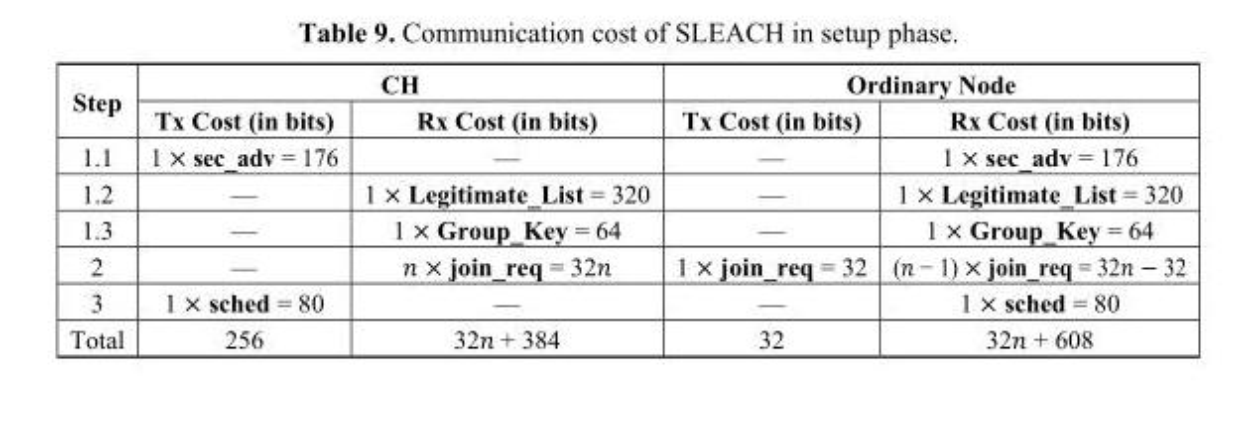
<table><thead><tr><td rowspan="2">Step</td><td colspan="2">CH</td><td colspan="2">Ordinary Node</td></tr><tr><td>Tx Cost (in bits)</td><td>Rx Cost (in bits)</td><td>Tx Cost (in bits)</td><td>Rx Cost (in bits)</td></tr></thead><tbody><tr><td>1.1</td><td>1 × sec_adv = 176</td><td>—</td><td>—</td><td>1 × sec_adv = 176</td></tr><tr><td>1.2</td><td>—</td><td>1 × Legitimate_List = 320</td><td>—</td><td>1 × Legitimate_List = 320</td></tr><tr><td>1.3</td><td>—</td><td>1 × Group_Key = 64</td><td>—</td><td>1 × Group_Key = 64</td></tr><tr><td>2</td><td>—</td><td>n × join_req = 32n</td><td>1 × join_req = 32</td><td>(n − 1) × join_req = 32n − 32</td></tr><tr><td>3</td><td>1 × sched = 80</td><td>—</td><td>—</td><td>1 × sched = 80</td></tr><tr><td>Total</td><td>256</td><td>32n + 384</td><td>32</td><td>32n + 608</td></tr></tbody></table>